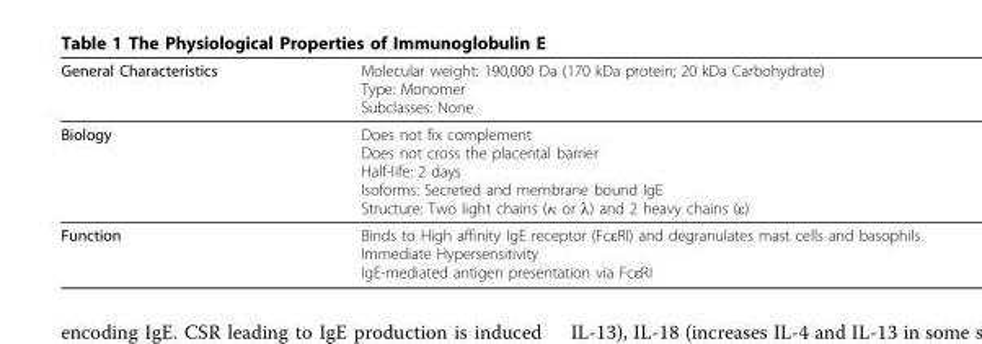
<table><thead><tr><td>General Characteristics</td><td>Molecular weight: 190,000 Da (170 kDa protein; 20 kDa Carbohydrate) Type: Monomer Subclasses: None</td></tr></thead><tbody><tr><td>Biology</td><td>Does not fix complement Does not cross the placental barrier Half-life: 2 days Isoforms: Secreted and membrane bound IgE Structure: Two light chains (κ or λ) and 2 heavy chains (ε)</td></tr><tr><td>Function</td><td>Binds to High affinity IgE receptor (FcεRI) and degranulates mast cells and basophils Immediate Hypersensitivity IgE-mediated antigen presentation via FcεRI</td></tr></tbody></table>